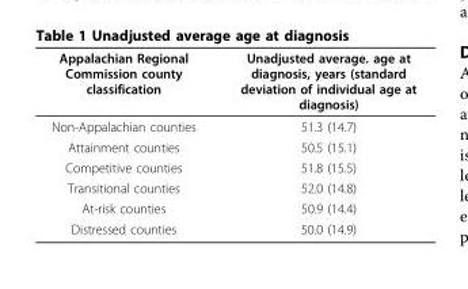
<table><thead><tr><td>Appalachian Regional Commission county classification</td><td>Unadjusted average. age at diagnosis, years (standard deviation of individual age at diagnosis)</td></tr></thead><tbody><tr><td>Non-Appalachian counties</td><td>51.3 (14.7)</td></tr><tr><td>Attainment counties</td><td>50.5 (15.1)</td></tr><tr><td>Competitive counties</td><td>51.8 (15.5)</td></tr><tr><td>Transitional counties</td><td>52.0 (14.8)</td></tr><tr><td>At-risk counties</td><td>50.9 (14.4)</td></tr><tr><td>Distressed counties</td><td>50.0 (14.9)</td></tr></tbody></table>